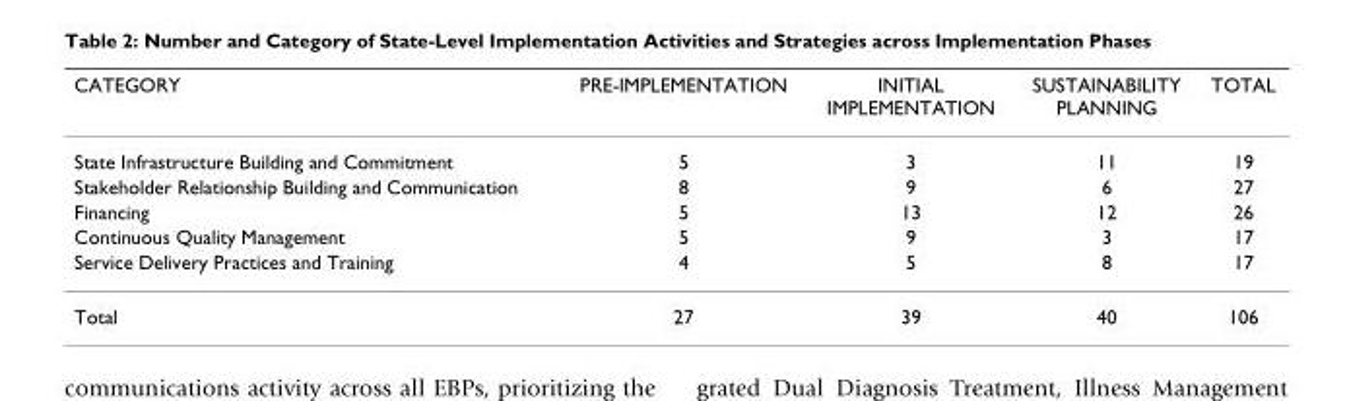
<table><thead><tr><td>CATEGORY</td><td>PRE-IMPLEMENTATION</td><td>INITIAL IMPLEMENTATION</td><td>SUSTAINABILITY PLANNING</td><td>TOTAL</td></tr></thead><tbody><tr><td>State Infrastructure Building and Commitment</td><td>5</td><td>3</td><td>11</td><td>19</td></tr><tr><td>Stakeholder Relationship Building and Communication</td><td>8</td><td>9</td><td>6</td><td>27</td></tr><tr><td>Financing</td><td>5</td><td>13</td><td>12</td><td>26</td></tr><tr><td>Continuous Quality Management</td><td>5</td><td>9</td><td>3</td><td>17</td></tr><tr><td>Service Delivery Practices and Training</td><td>4</td><td>5</td><td>8</td><td>17</td></tr><tr><td>Total</td><td>27</td><td>39</td><td>40</td><td>106</td></tr></tbody></table>